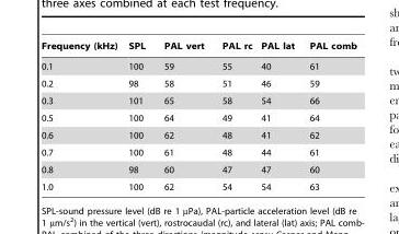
<table><thead><tr><td>Frequency (kHz)</td><td>SPL</td><td>PAL vert</td><td>PAL rc</td><td>PAL lat</td><td>PAL comb</td></tr></thead><tbody><tr><td>0.1</td><td>100</td><td>59</td><td>55</td><td>40</td><td>61</td></tr><tr><td>0.2</td><td>98</td><td>58</td><td>51</td><td>46</td><td>59</td></tr><tr><td>0.3</td><td>101</td><td>65</td><td>58</td><td>54</td><td>66</td></tr><tr><td>0.5</td><td>100</td><td>64</td><td>49</td><td>41</td><td>64</td></tr><tr><td>0.6</td><td>100</td><td>62</td><td>48</td><td>41</td><td>62</td></tr><tr><td>0.7</td><td>100</td><td>61</td><td>48</td><td>44</td><td>61</td></tr><tr><td>0.8</td><td>98</td><td>60</td><td>47</td><td>47</td><td>60</td></tr><tr><td>1.0</td><td>100</td><td>62</td><td>54</td><td>54</td><td>63</td></tr></tbody></table>